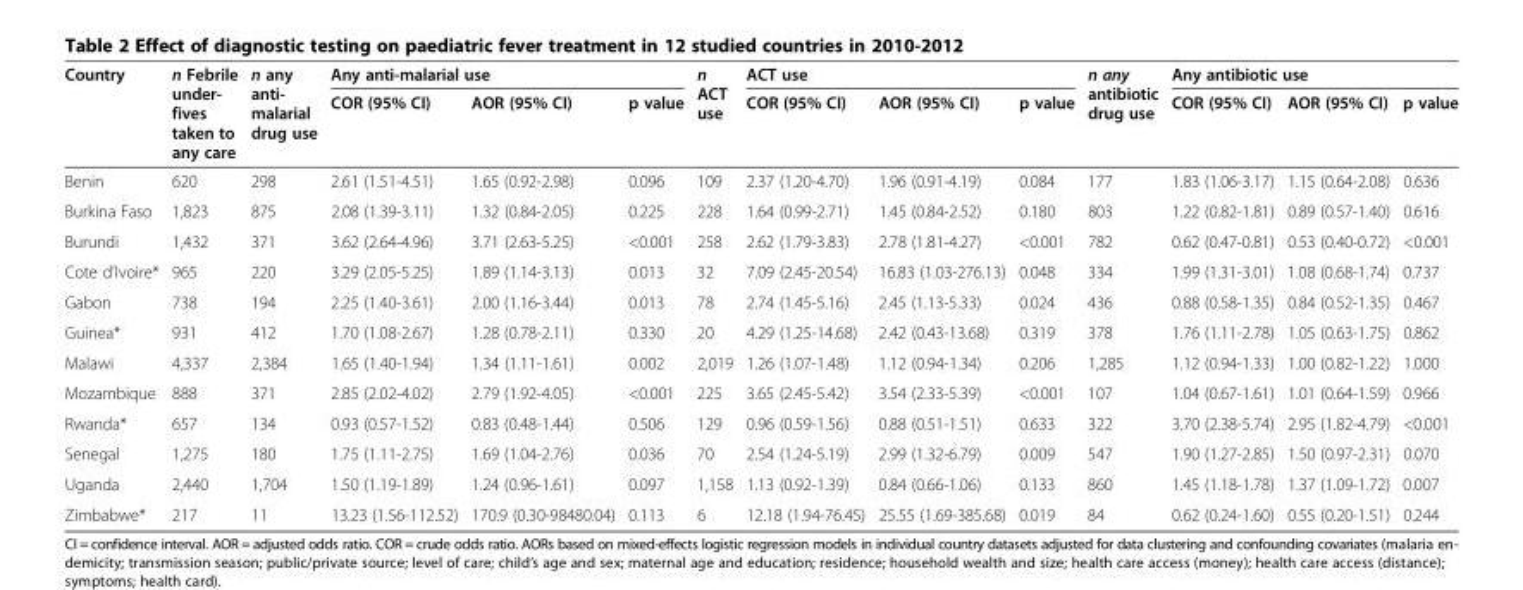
<table><thead><tr><td rowspan="2">Country</td><td rowspan="2">n Febrile under- fives taken to any care</td><td rowspan="2">n any anti- malarial drug use</td><td colspan="3">Any anti-malarial use</td><td rowspan="2">n ACT use</td><td colspan="3">ACT use</td><td rowspan="2">n any antibiotic drug use</td><td colspan="3">Any antibiotic use</td></tr><tr><td>COR (95% CI)</td><td>AOR (95% CI)</td><td>p value</td><td>COR (95% CI)</td><td>AOR (95% CI)</td><td>p value</td><td>COR (95% CI)</td><td>AOR (95% CI)</td><td>p value</td></tr></thead><tbody><tr><td>Benin</td><td>620</td><td>298</td><td>2.61 (1.51-4.51)</td><td>1.65 (0.92-2.98)</td><td>0.096</td><td>109</td><td>2.37 (1.20-4.70)</td><td>1.96 (0.91-4.19)</td><td>0.084</td><td>177</td><td>1.83 (1.06-3.17)</td><td>1.15 (0.64-2.08)</td><td>0.636</td></tr><tr><td>Burkina Faso</td><td>1,823</td><td>875</td><td>2.08 (1.39-3.11)</td><td>1.32 (0.84-2.05)</td><td>0.225</td><td>228</td><td>1.64 (0.99-2.71)</td><td>1.45 (0.84-2.52)</td><td>0.180</td><td>803</td><td>1.22 (0.82-1.81)</td><td>0.89 (0.57-1.40)</td><td>0.616</td></tr><tr><td>Burundi</td><td>1,432</td><td>371</td><td>3.62 (2.64-4.96)</td><td>3.71 (2.63-5.25)</td><td>&lt;0.001</td><td>258</td><td>2.62 (1.79-3.83)</td><td>2.78 (1.81-4.27)</td><td>&lt;0.001</td><td>782</td><td>0.62 (0.47-0.81)</td><td>0.53 (0.40-0.72)</td><td>&lt;0.001</td></tr><tr><td>Cote d’Ivoire*</td><td>965</td><td>220</td><td>3.29 (2.05-5.25)</td><td>1.89 (1.14-3.13)</td><td>0.013</td><td>32</td><td>7.09 (2.45-20.54)</td><td>16.83 (1.03-276.13)</td><td>0.048</td><td>334</td><td>1.99 (1.31-3.01)</td><td>1.08 (0.68-1.74)</td><td>0.737</td></tr><tr><td>Gabon</td><td>738</td><td>194</td><td>2.25 (1.40-3.61)</td><td>2.00 (1.16-3.44)</td><td>0.013</td><td>78</td><td>2.74 (1.45-5.16)</td><td>2.45 (1.13-5.33)</td><td>0.024</td><td>436</td><td>0.88 (0.58-1.35)</td><td>0.84 (0.52-1.35)</td><td>0.467</td></tr><tr><td>Guinea*</td><td>931</td><td>412</td><td>1.70 (1.08-2.67)</td><td>1.28 (0.78-2.11)</td><td>0.330</td><td>20</td><td>4.29 (1.25-14.68)</td><td>2.42 (0.43-13.68)</td><td>0.319</td><td>378</td><td>1.76 (1.11-2.78)</td><td>1.05 (0.63-1.75)</td><td>0.862</td></tr><tr><td>Malawi</td><td>4,337</td><td>2,384</td><td>1.65 (1.40-1.94)</td><td>1.34 (1.11-1.61)</td><td>0.002</td><td>2,019</td><td>1.26 (1.07-1.48)</td><td>1.12 (0.94-1.34)</td><td>0.206</td><td>1,285</td><td>1.12 (0.94-1.33)</td><td>1.00 (0.82-1.22)</td><td>1.000</td></tr><tr><td>Mozambique</td><td>888</td><td>371</td><td>2.85 (2.02-4.02)</td><td>2.79 (1.92-4.05)</td><td>&lt;0.001</td><td>225</td><td>3.65 (2.45-5.42)</td><td>3.54 (2.33-5.39)</td><td>&lt;0.001</td><td>107</td><td>1.04 (0.67-1.61)</td><td>1.01 (0.64-1.59)</td><td>0.966</td></tr><tr><td>Rwanda*</td><td>657</td><td>134</td><td>0.93 (0.57-1.52)</td><td>0.83 (0.48-1.44)</td><td>0.506</td><td>129</td><td>0.96 (0.59-1.56)</td><td>0.88 (0.51-1.51)</td><td>0.633</td><td>322</td><td>3.70 (2.38-5.74)</td><td>2.95 (1.82-4.79)</td><td>&lt;0.001</td></tr><tr><td>Senegal</td><td>1,275</td><td>180</td><td>1.75 (1.11-2.75)</td><td>1.69 (1.04-2.76)</td><td>0.036</td><td>70</td><td>2.54 (1.24-5.19)</td><td>2.99 (1.32-6.79)</td><td>0.009</td><td>547</td><td>1.90 (1.27-2.85)</td><td>1.50 (0.97-2.31)</td><td>0.070</td></tr><tr><td>Uganda</td><td>2,440</td><td>1,704</td><td>1.50 (1.19-1.89)</td><td>1.24 (0.96-1.61)</td><td>0.097</td><td>1,158</td><td>1.13 (0.92-1.39)</td><td>0.84 (0.66-1.06)</td><td>0.133</td><td>860</td><td>1.45 (1.18-1.78)</td><td>1.37 (1.09-1.72)</td><td>0.007</td></tr><tr><td>Zimbabwe*</td><td>217</td><td>11</td><td>13.23 (1.56-112.52)</td><td>170.9 (0.30-98480.04)</td><td>0.113</td><td>6</td><td>12.18 (1.94-76.45)</td><td>25.55 (1.69-385.68)</td><td>0.019</td><td>84</td><td>0.62 (0.24-1.60)</td><td>0.55 (0.20-1.51)</td><td>0.244</td></tr></tbody></table>